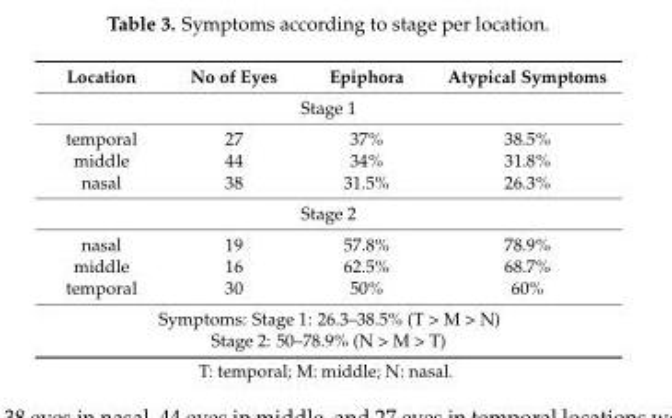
<table><thead><tr><td>Location</td><td>No of Eyes</td><td>Epiphora</td><td>Atypical Symptoms</td></tr></thead><tbody><tr><td colspan="4">Stage 1</td></tr><tr><td>temporal</td><td>27</td><td>37%</td><td>38.5%</td></tr><tr><td>middle</td><td>44</td><td>34%</td><td>31.8%</td></tr><tr><td>nasal</td><td>38</td><td>31.5%</td><td>26.3%</td></tr><tr><td colspan="4">Stage 2</td></tr><tr><td>nasal</td><td>19</td><td>57.8%</td><td>78.9%</td></tr><tr><td>middle</td><td>16</td><td>62.5%</td><td>68.7%</td></tr><tr><td>temporal</td><td>30</td><td>50%</td><td>60%</td></tr><tr><td colspan="4">Symptoms: Stage 1: 26.3–38.5% (T &gt; M &gt; N) Stage 2: 50–78.9% (N &gt; M &gt; T)</td></tr></tbody></table>